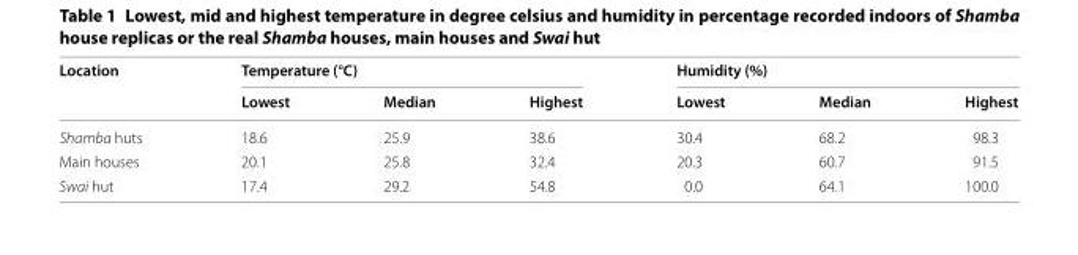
<table><thead><tr><td rowspan="2">Location</td><td colspan="3">Temperature (°C)</td><td colspan="3">Humidity (%)</td></tr><tr><td>Lowest</td><td>Median</td><td>Highest</td><td>Lowest</td><td>Median</td><td>Highest</td></tr></thead><tbody><tr><td>Shamba huts</td><td>18.6</td><td>25.9</td><td>38.6</td><td>30.4</td><td>68.2</td><td>98.3</td></tr><tr><td>Main houses</td><td>20.1</td><td>25.8</td><td>32.4</td><td>20.3</td><td>60.7</td><td>91.5</td></tr><tr><td>Swai hut</td><td>17.4</td><td>29.2</td><td>54.8</td><td>0.0</td><td>64.1</td><td>100.0</td></tr></tbody></table>